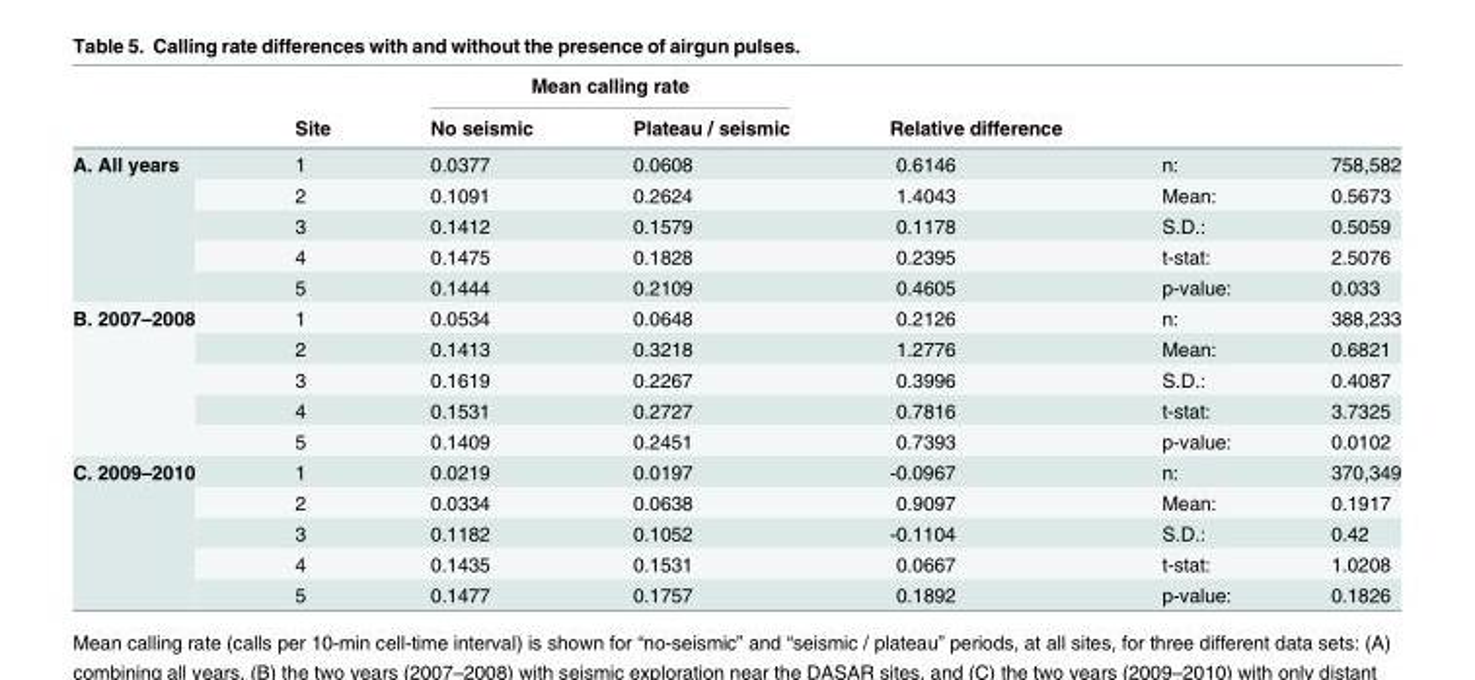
<table><thead><tr><td rowspan="2"></td><td rowspan="2">Site</td><td colspan="2">Mean calling rate</td><td rowspan="2">Relative difference</td><td rowspan="2"></td><td rowspan="2"></td></tr><tr><td>No seismic</td><td>Plateau / seismic</td></tr></thead><tbody><tr><td rowspan="5">A. All years</td><td>1</td><td>0.0377</td><td>0.0608</td><td>0.6146</td><td>n:</td><td>758,582</td></tr><tr><td>2</td><td>0.1091</td><td>0.2624</td><td>1.4043</td><td>Mean:</td><td>0.5673</td></tr><tr><td>3</td><td>0.1412</td><td>0.1579</td><td>0.1178</td><td>S.D.:</td><td>0.5059</td></tr><tr><td>4</td><td>0.1475</td><td>0.1828</td><td>0.2395</td><td>t-stat:</td><td>2.5076</td></tr><tr><td>5</td><td>0.1444</td><td>0.2109</td><td>0.4605</td><td>p-value:</td><td>0.033</td></tr><tr><td rowspan="5">B. 2007–2008</td><td>1</td><td>0.0534</td><td>0.0648</td><td>0.2126</td><td>n:</td><td>388,233</td></tr><tr><td>2</td><td>0.1413</td><td>0.3218</td><td>1.2776</td><td>Mean:</td><td>0.6821</td></tr><tr><td>3</td><td>0.1619</td><td>0.2267</td><td>0.3996</td><td>S.D.:</td><td>0.4087</td></tr><tr><td>4</td><td>0.1531</td><td>0.2727</td><td>0.7816</td><td>t-stat:</td><td>3.7325</td></tr><tr><td>5</td><td>0.1409</td><td>0.2451</td><td>0.7393</td><td>p-value:</td><td>0.0102</td></tr><tr><td rowspan="5">C. 2009–2010</td><td>1</td><td>0.0219</td><td>0.0197</td><td>-0.0967</td><td>n:</td><td>370,349</td></tr><tr><td>2</td><td>0.0334</td><td>0.0638</td><td>0.9097</td><td>Mean:</td><td>0.1917</td></tr><tr><td>3</td><td>0.1182</td><td>0.1052</td><td>-0.1104</td><td>S.D.:</td><td>0.42</td></tr><tr><td>4</td><td>0.1435</td><td>0.1531</td><td>0.0667</td><td>t-stat:</td><td>1.0208</td></tr><tr><td>5</td><td>0.1477</td><td>0.1757</td><td>0.1892</td><td>p-value:</td><td>0.1826</td></tr></tbody></table>